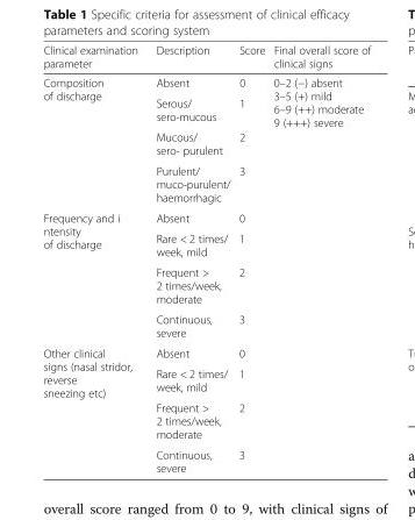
<table><thead><tr><td>Clinical examination parameter</td><td>Description</td><td>Score</td><td>Final overall score of clinical signs</td></tr></thead><tbody><tr><td rowspan="4">Composition of discharge</td><td>Absent</td><td>0</td><td rowspan="12">0–2 (−) absent 3–5 (+) mild 6–9 (++) moderate 9 (+++) severe</td></tr><tr><td>Serous/ sero-mucous</td><td>1</td></tr><tr><td>Mucous/ sero- purulent</td><td>2</td></tr><tr><td>Purulent/ muco-purulent/ haemorrhagic</td><td>3</td></tr><tr><td rowspan="4">Frequency and i ntensity of discharge</td><td>Absent</td><td>0</td></tr><tr><td>Rare &lt; 2 times/ week, mild</td><td>1</td></tr><tr><td>Frequent &gt; 2 times/week, moderate</td><td>2</td></tr><tr><td>Continuous, severe</td><td>3</td></tr><tr><td rowspan="4">Other clinical signs (nasal stridor, reverse sneezing etc)</td><td>Absent</td><td>0</td></tr><tr><td>Rare &lt; 2 times/ week, mild</td><td>1</td></tr><tr><td>Frequent &gt; 2 times/week, moderate</td><td>2</td></tr><tr><td>Continuous, severe</td><td>3</td></tr></tbody></table>